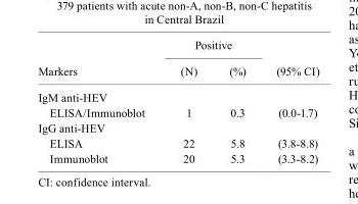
<table><thead><tr><td rowspan="2">Markers</td><td colspan="2">Positive</td><td rowspan="2">(95% CI)</td></tr><tr><td>(N)</td><td>(%)</td></tr></thead><tbody><tr><td colspan="4">IgM anti-HEV</td></tr><tr><td>ELISA/Immunoblot</td><td>1</td><td>0.3</td><td>(0.0-1.7)</td></tr><tr><td colspan="4">IgG anti-HEV</td></tr><tr><td>ELISA</td><td>22</td><td>5.8</td><td>(3.8-8.8)</td></tr><tr><td>Immunoblot</td><td>20</td><td>5.3</td><td>(3.3-8.2)</td></tr></tbody></table>